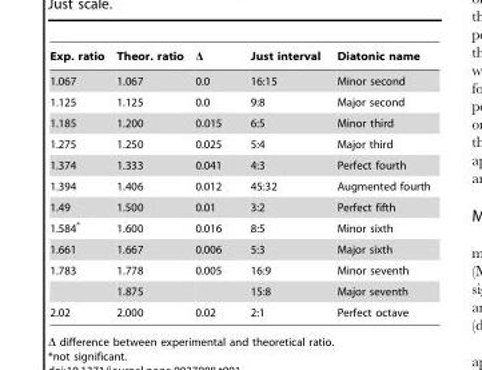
<table><thead><tr><td>Exp. ratio</td><td>Theor. ratio</td><td>Δ</td><td>Just interval</td><td>Diatonic name</td></tr></thead><tbody><tr><td>1.067</td><td>1.067</td><td>0.0</td><td>16:15</td><td>Minor second</td></tr><tr><td>1.125</td><td>1.125</td><td>0.0</td><td>9:8</td><td>Major second</td></tr><tr><td>1.185</td><td>1.200</td><td>0.015</td><td>6:5</td><td>Minor third</td></tr><tr><td>1.275</td><td>1.250</td><td>0.025</td><td>5:4</td><td>Major third</td></tr><tr><td>1.374</td><td>1.333</td><td>0.041</td><td>4:3</td><td>Perfect fourth</td></tr><tr><td>1.394</td><td>1.406</td><td>0.012</td><td>45:32</td><td>Augmented fourth</td></tr><tr><td>1.49</td><td>1.500</td><td>0.01</td><td>3:2</td><td>Perfect fifth</td></tr><tr><td>1.584*</td><td>1.600</td><td>0.016</td><td>8:5</td><td>Minor sixth</td></tr><tr><td>1.661</td><td>1.667</td><td>0.006</td><td>5:3</td><td>Major sixth</td></tr><tr><td rowspan="2">1.783</td><td>1.778</td><td>0.005</td><td>16:9</td><td>Minor seventh</td></tr><tr><td>1.875</td><td></td><td>15:8</td><td>Major seventh</td></tr><tr><td>2.02</td><td>2.000</td><td>0.02</td><td>2:1</td><td>Perfect octave</td></tr></tbody></table>